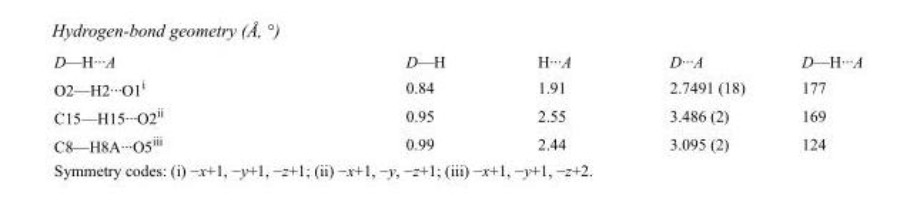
<table><tbody><tr><td>D—H···A</td><td>D—H</td><td>H···A</td><td>D···A</td><td>D—H···A</td></tr><tr><td>O2—H2···O1<sup>i</sup></td><td>0.84</td><td>1.91</td><td>2.7491 (18)</td><td>177</td></tr><tr><td>C15—H15···O2<sup>ii</sup></td><td>0.95</td><td>2.55</td><td>3.486 (2)</td><td>169</td></tr><tr><td>C8—H8A···O5<sup>iii</sup></td><td>0.99</td><td>2.44</td><td>3.095 (2)</td><td>124</td></tr></tbody></table>